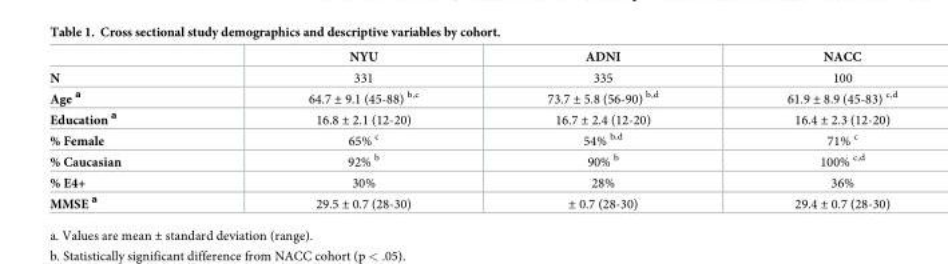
<table><thead><tr><td></td><td>NYU</td><td>ADNI</td><td>NACC</td></tr></thead><tbody><tr><td>N</td><td>331</td><td>335</td><td>100</td></tr><tr><td>Age a</td><td>64.7 ± 9.1 (45-88) <sup>b,c</sup></td><td>73.7 ± 5.8 (56-90) <sup>b,d</sup></td><td>61.9 ± 8.9 (45-83) <sup>c,d</sup></td></tr><tr><td>Education a</td><td>16.8 ± 2.1 (12-20)</td><td>16.7 ± 2.4 (12-20)</td><td>16.4 ± 2.3 (12-20)</td></tr><tr><td>% Female</td><td>65% <sup>c</sup></td><td>54% <sup>b,d</sup></td><td>71% <sup>c</sup></td></tr><tr><td>% Caucasian</td><td>92% <sup>b</sup></td><td>90% <sup>b</sup></td><td>100% <sup>c,d</sup></td></tr><tr><td>% E4+</td><td>30%</td><td>28%</td><td>36%</td></tr><tr><td>MMSE a</td><td>29.5 ± 0.7 (28-30)</td><td>± 0.7 (28-30)</td><td>29.4 ± 0.7 (28-30)</td></tr></tbody></table>